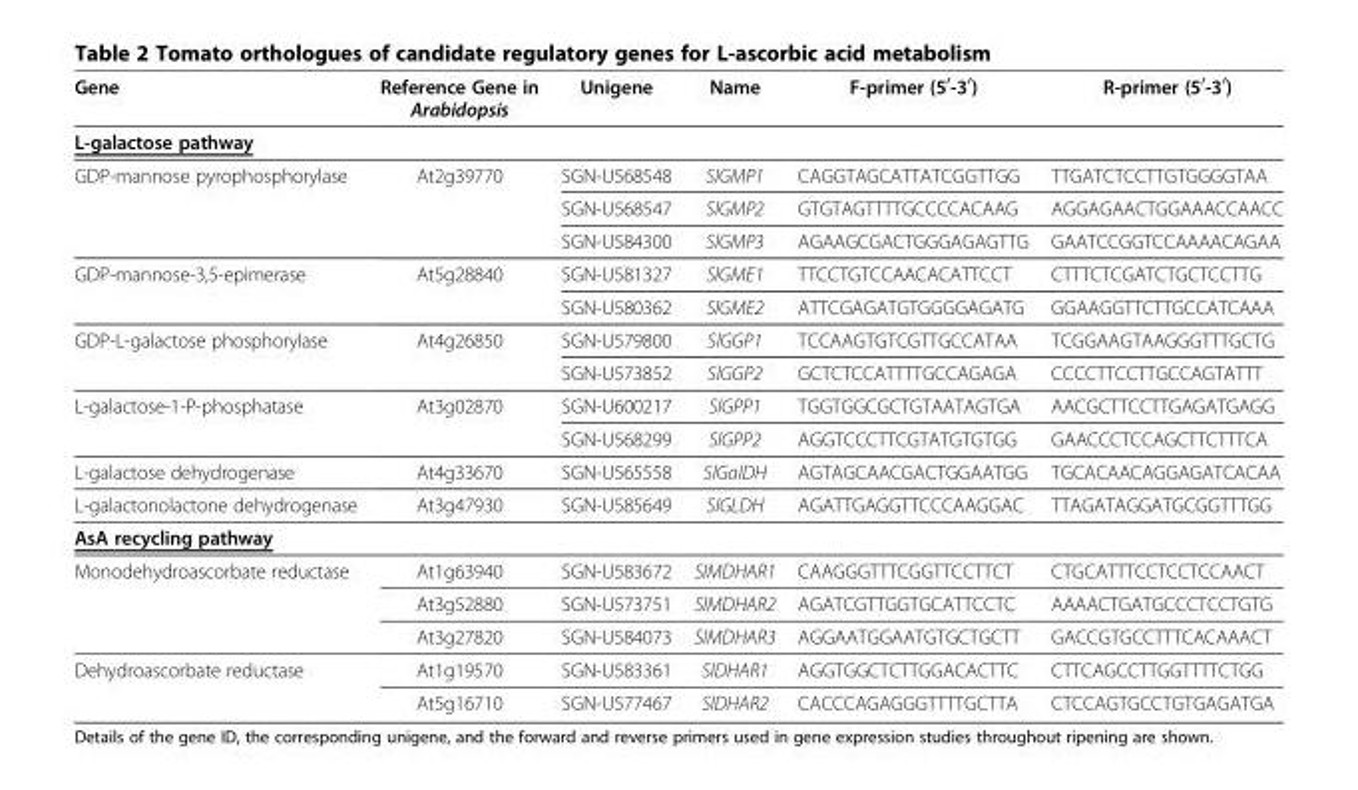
<table><thead><tr><td>Gene</td><td>Reference Gene in Arabidopsis</td><td>Unigene</td><td>Name</td><td>F-primer (5<sup>′</sup>-3<sup>′</sup>)</td><td>R-primer (5<sup>′</sup>-3<sup>′</sup>)</td></tr></thead><tbody><tr><td colspan="6">L-galactose pathway</td></tr><tr><td rowspan="3">GDP-mannose pyrophosphorylase</td><td rowspan="3">At2g39770</td><td>SGN-U568548</td><td>SlGMP1</td><td>CAGGTAGCATTATCGGTTGG</td><td>TTGATCTCCTTGTGGGGTAA</td></tr><tr><td>SGN-U568547</td><td>SlGMP2</td><td>GTGTAGTTTTGCCCCACAAG</td><td>AGGAGAACTGGAAACCAACC</td></tr><tr><td>SGN-U584300</td><td>SlGMP3</td><td>AGAAGCGACTGGGAGAGTTG</td><td>GAATCCGGTCCAAAACAGAA</td></tr><tr><td rowspan="2">GDP-mannose-3,5-epimerase</td><td rowspan="2">At5g28840</td><td>SGN-U581327</td><td>SlGME1</td><td>TTCCTGTCCAACACATTCCT</td><td>CTTTCTCGATCTGCTCCTTG</td></tr><tr><td>SGN-U580362</td><td>SlGME2</td><td>ATTCGAGATGTGGGGAGATG</td><td>GGAAGGTTCTTGCCATCAAA</td></tr><tr><td rowspan="2">GDP-L-galactose phosphorylase</td><td rowspan="2">At4g26850</td><td>SGN-U579800</td><td>SlGGP1</td><td>TCCAAGTGTCGTTGCCATAA</td><td>TCGGAAGTAAGGGTTTGCTG</td></tr><tr><td>SGN-U573852</td><td>SlGGP2</td><td>GCTCTCCATTTTGCCAGAGA</td><td>CCCCTTCCTTGCCAGTATTT</td></tr><tr><td rowspan="2">L-galactose-1-P-phosphatase</td><td rowspan="2">At3g02870</td><td>SGN-U600217</td><td>SlGPP1</td><td>TGGTGGCGCTGTAATAGTGA</td><td>AACGCTTCCTTGAGATGAGG</td></tr><tr><td>SGN-U568299</td><td>SlGPP2</td><td>AGGTCCCTTCGTATGTGTGG</td><td>GAACCCTCCAGCTTCTTTCA</td></tr><tr><td>L-galactose dehydrogenase</td><td>At4g33670</td><td>SGN-U565558</td><td>SlGalDH</td><td>AGTAGCAACGACTGGAATGG</td><td>TGCACAACAGGAGATCACAA</td></tr><tr><td>L-galactonolactone dehydrogenase</td><td>At3g47930</td><td>SGN-U585649</td><td>SlGLDH</td><td>AGATTGAGGTTCCCAAGGAC</td><td>TTAGATAGGATGCGGTTTGG</td></tr><tr><td colspan="6">AsA recycling pathway</td></tr><tr><td rowspan="3">Monodehydroascorbate reductase</td><td>At1g63940</td><td>SGN-U583672</td><td>SlMDHAR1</td><td>CAAGGGTTTCGGTTCCTTCT</td><td>CTGCATTTCCTCCTCCAACT</td></tr><tr><td>At3g52880</td><td>SGN-U573751</td><td>SlMDHAR2</td><td>AGATCGTTGGTGCATTCCTC</td><td>AAAACTGATGCCCTCCTGTG</td></tr><tr><td>At3g27820</td><td>SGN-U584073</td><td>SlMDHAR3</td><td>AGGAATGGAATGTGCTGCTT</td><td>GACCGTGCCTTTCACAAACT</td></tr><tr><td rowspan="2">Dehydroascorbate reductase</td><td>At1g19570</td><td>SGN-U583361</td><td>SlDHAR1</td><td>AGGTGGCTCTTGGACACTTC</td><td>CTTCAGCCTTGGTTTTCTGG</td></tr><tr><td>At5g16710</td><td>SGN-U577467</td><td>SlDHAR2</td><td>CACCCAGAGGGTTTTGCTTA</td><td>CTCCAGTGCCTGTGAGATGA</td></tr></tbody></table>